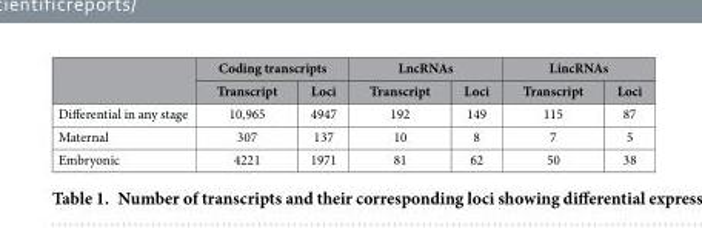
<table><thead><tr><td rowspan="2"></td><td colspan="2">Coding transcripts</td><td colspan="2">LncRNAs</td><td colspan="2">LincRNAs</td></tr><tr><td>Transcript</td><td>Loci</td><td>Transcript</td><td>Loci</td><td>Transcript</td><td>Loci</td></tr></thead><tbody><tr><td>Differential in any stage</td><td>10,965</td><td>4947</td><td>192</td><td>149</td><td>115</td><td>87</td></tr><tr><td>Maternal</td><td>307</td><td>137</td><td>10</td><td>8</td><td>7</td><td>5</td></tr><tr><td>Embryonic</td><td>4221</td><td>1971</td><td>81</td><td>62</td><td>50</td><td>38</td></tr></tbody></table>